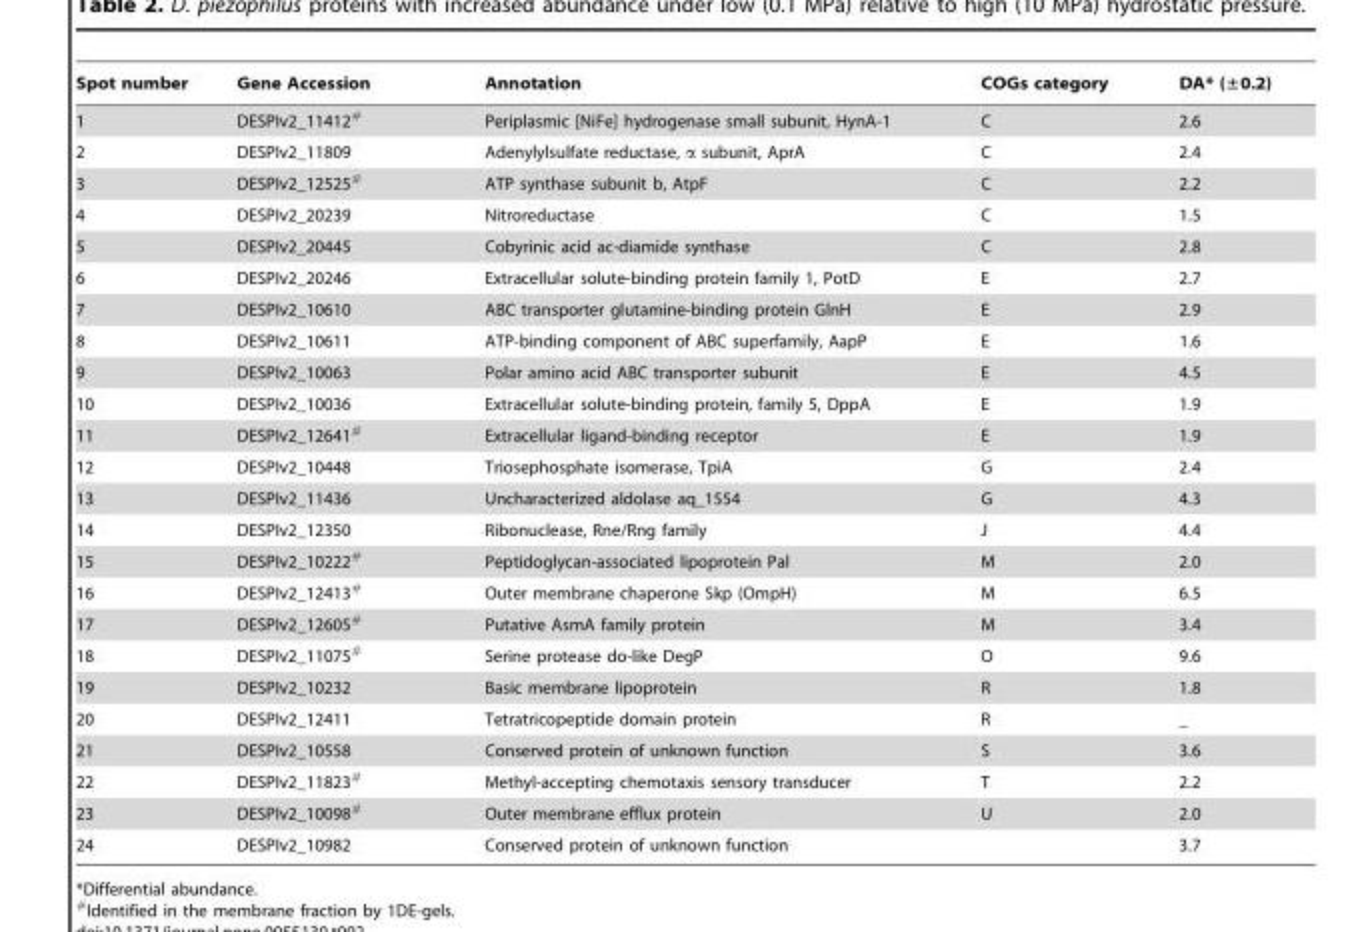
<table><thead><tr><td>Spot number</td><td>Gene Accession</td><td>Annotation</td><td>COGs category</td><td>DA* (±0.2)</td></tr></thead><tbody><tr><td>1</td><td>DESPIv2_11412#</td><td>Periplasmic [NiFe] hydrogenase small subunit, HynA-1</td><td>C</td><td>2.6</td></tr><tr><td>2</td><td>DESPIv2_11809</td><td>Adenylylsulfate reductase, α subunit, AprA</td><td>C</td><td>2.4</td></tr><tr><td>3</td><td>DESPIv2_12525#</td><td>ATP synthase subunit b, AtpF</td><td>C</td><td>2.2</td></tr><tr><td>4</td><td>DESPIv2_20239</td><td>Nitroreductase</td><td>C</td><td>1.5</td></tr><tr><td>5</td><td>DESPIv2_20445</td><td>Cobyrinic acid ac-diamide synthase</td><td>C</td><td>2.8</td></tr><tr><td>6</td><td>DESPIv2_20246</td><td>Extracellular solute-binding protein family 1, PotD</td><td>E</td><td>2.7</td></tr><tr><td>7</td><td>DESPIv2_10610</td><td>ABC transporter glutamine-binding protein GlnH</td><td>E</td><td>2.9</td></tr><tr><td>8</td><td>DESPIv2_10611</td><td>ATP-binding component of ABC superfamily, AapP</td><td>E</td><td>1.6</td></tr><tr><td>9</td><td>DESPIv2_10063</td><td>Polar amino acid ABC transporter subunit</td><td>E</td><td>4.5</td></tr><tr><td>10</td><td>DESPIv2_10036</td><td>Extracellular solute-binding protein, family 5, DppA</td><td>E</td><td>1.9</td></tr><tr><td>11</td><td>DESPIv2_12641#</td><td>Extracellular ligand-binding receptor</td><td>E</td><td>1.9</td></tr><tr><td>12</td><td>DESPIv2_10448</td><td>Triosephosphate isomerase, TpiA</td><td>G</td><td>2.4</td></tr><tr><td>13</td><td>DESPIv2_11436</td><td>Uncharacterized aldolase aq_1554</td><td>G</td><td>4.3</td></tr><tr><td>14</td><td>DESPIv2_12350</td><td>Ribonuclease, Rne/Rng family</td><td>J</td><td>4.4</td></tr><tr><td>15</td><td>DESPIv2_10222#</td><td>Peptidoglycan-associated lipoprotein Pal</td><td>M</td><td>2.0</td></tr><tr><td>16</td><td>DESPIv2_12413#</td><td>Outer membrane chaperone Skp (OmpH)</td><td>M</td><td>6.5</td></tr><tr><td>17</td><td>DESPIv2_12605#</td><td>Putative AsmA family protein</td><td>M</td><td>3.4</td></tr><tr><td>18</td><td>DESPIv2_11075#</td><td>Serine protease do-like DegP</td><td>O</td><td>9.6</td></tr><tr><td>19</td><td>DESPIv2_10232</td><td>Basic membrane lipoprotein</td><td>R</td><td>1.8</td></tr><tr><td>20</td><td>DESPIv2_12411</td><td>Tetratricopeptide domain protein</td><td>R</td><td>_</td></tr><tr><td>21</td><td>DESPIv2_10558</td><td>Conserved protein of unknown function</td><td>S</td><td>3.6</td></tr><tr><td>22</td><td>DESPIv2_11823#</td><td>Methyl-accepting chemotaxis sensory transducer</td><td>T</td><td>2.2</td></tr><tr><td>23</td><td>DESPIv2_10098#</td><td>Outer membrane efflux protein</td><td>U</td><td>2.0</td></tr><tr><td>24</td><td>DESPIv2_10982</td><td>Conserved protein of unknown function</td><td></td><td>3.7</td></tr></tbody></table>